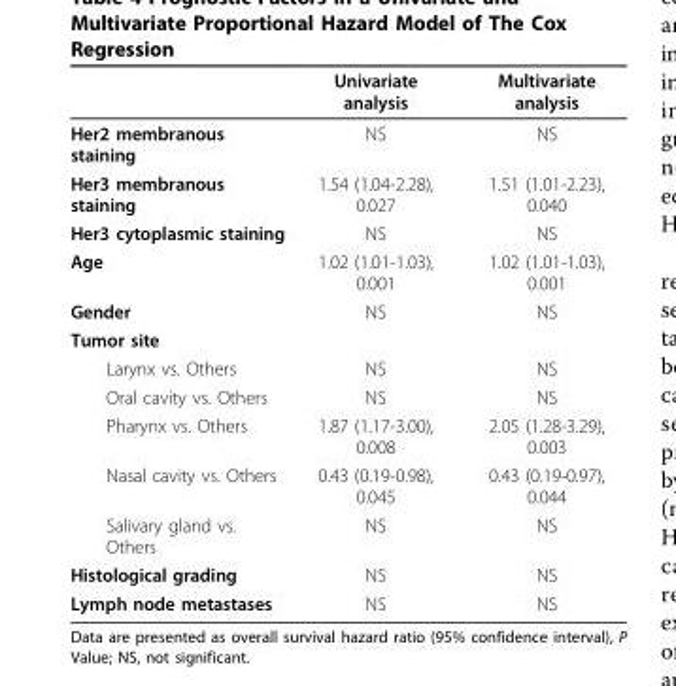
<table><thead><tr><td></td><td>Univariate analysis</td><td>Multivariate analysis</td></tr></thead><tbody><tr><td>Her2 membranous staining</td><td>NS</td><td>NS</td></tr><tr><td>Her3 membranous staining</td><td>1.54 (1.04-2.28), 0.027</td><td>1.51 (1.01-2.23), 0.040</td></tr><tr><td>Her3 cytoplasmic staining</td><td>NS</td><td>NS</td></tr><tr><td>Age</td><td>1.02 (1.01-1.03), 0.001</td><td>1.02 (1.01-1.03), 0.001</td></tr><tr><td>Gender</td><td>NS</td><td>NS</td></tr><tr><td colspan="3">Tumor site</td></tr><tr><td>Larynx vs. Others</td><td>NS</td><td>NS</td></tr><tr><td>Oral cavity vs. Others</td><td>NS</td><td>NS</td></tr><tr><td>Pharynx vs. Others</td><td>1.87 (1.17-3.00), 0.008</td><td>2.05 (1.28-3.29), 0.003</td></tr><tr><td>Nasal cavity vs. Others</td><td>0.43 (0.19-0.98), 0.045</td><td>0.43 (0.19-0.97), 0.044</td></tr><tr><td>Salivary gland vs. Others</td><td>NS</td><td>NS</td></tr><tr><td>Histological grading</td><td>NS</td><td>NS</td></tr><tr><td>Lymph node metastases</td><td>NS</td><td>NS</td></tr></tbody></table>